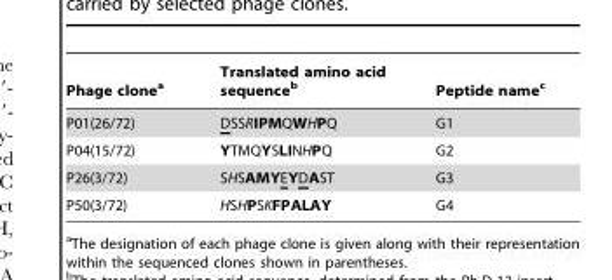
<table><thead><tr><td>Phage clone<sup>a</sup></td><td>Translated amino acid sequence<sup>b</sup></td><td>Peptide name<sup>c</sup></td></tr></thead><tbody><tr><td>P01(26/72)</td><td>DSSRIPMQWHPQ</td><td>G1</td></tr><tr><td>P04(15/72)</td><td>YTMQYSLINHPQ</td><td>G2</td></tr><tr><td>P26(3/72)</td><td>SHSAMYEYDAST</td><td>G3</td></tr><tr><td>P50(3/72)</td><td>HSHPSKFPALAY</td><td>G4</td></tr></tbody></table>